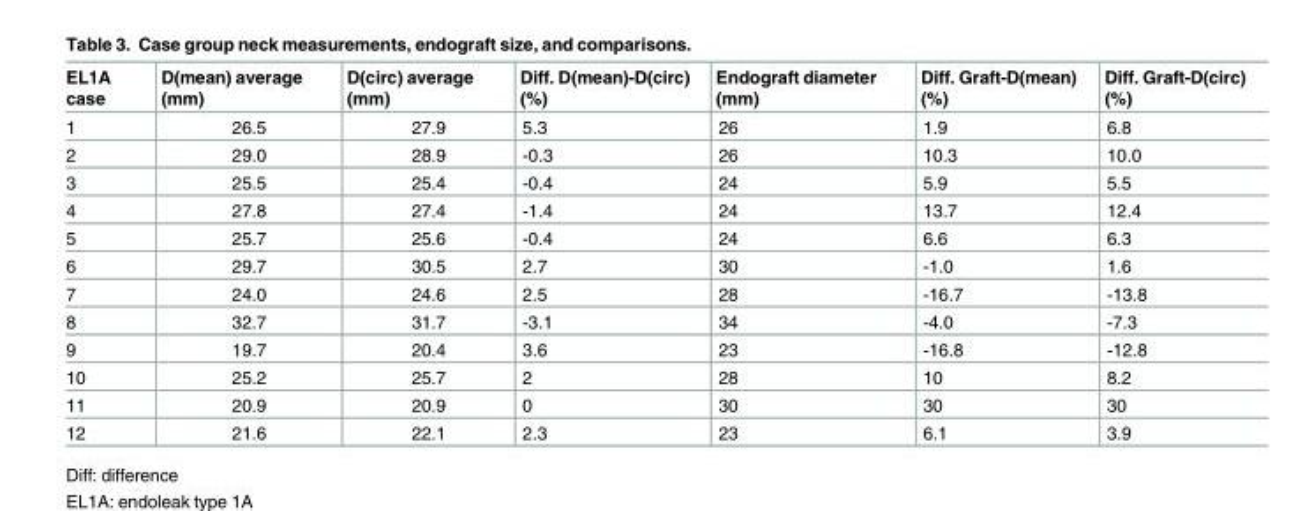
<table><thead><tr><td>EL1A case</td><td>D(mean) average (mm)</td><td>D(circ) average (mm)</td><td>Diff. D(mean)-D(circ) (%)</td><td>Endograft diameter (mm)</td><td>Diff. Graft-D(mean) (%)</td><td>Diff. Graft-D(circ) (%)</td></tr></thead><tbody><tr><td>1</td><td>26.5</td><td>27.9</td><td>5.3</td><td>26</td><td>1.9</td><td>6.8</td></tr><tr><td>2</td><td>29.0</td><td>28.9</td><td>-0.3</td><td>26</td><td>10.3</td><td>10.0</td></tr><tr><td>3</td><td>25.5</td><td>25.4</td><td>-0.4</td><td>24</td><td>5.9</td><td>5.5</td></tr><tr><td>4</td><td>27.8</td><td>27.4</td><td>-1.4</td><td>24</td><td>13.7</td><td>12.4</td></tr><tr><td>5</td><td>25.7</td><td>25.6</td><td>-0.4</td><td>24</td><td>6.6</td><td>6.3</td></tr><tr><td>6</td><td>29.7</td><td>30.5</td><td>2.7</td><td>30</td><td>-1.0</td><td>1.6</td></tr><tr><td>7</td><td>24.0</td><td>24.6</td><td>2.5</td><td>28</td><td>-16.7</td><td>-13.8</td></tr><tr><td>8</td><td>32.7</td><td>31.7</td><td>-3.1</td><td>34</td><td>-4.0</td><td>-7.3</td></tr><tr><td>9</td><td>19.7</td><td>20.4</td><td>3.6</td><td>23</td><td>-16.8</td><td>-12.8</td></tr><tr><td>10</td><td>25.2</td><td>25.7</td><td>2</td><td>28</td><td>10</td><td>8.2</td></tr><tr><td>11</td><td>20.9</td><td>20.9</td><td>0</td><td>30</td><td>30</td><td>30</td></tr><tr><td>12</td><td>21.6</td><td>22.1</td><td>2.3</td><td>23</td><td>6.1</td><td>3.9</td></tr></tbody></table>